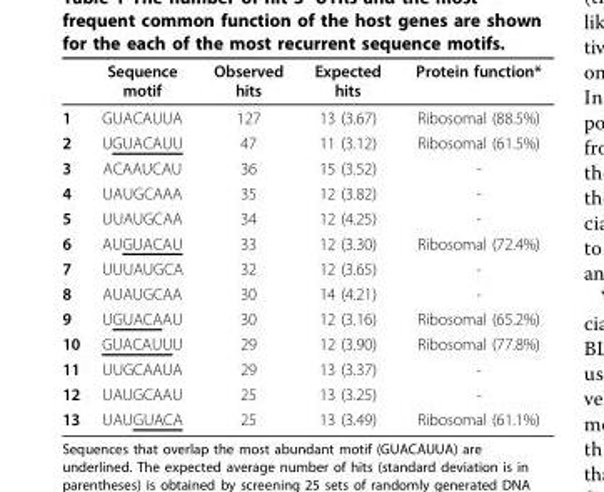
<table><thead><tr><td></td><td>Sequence motif</td><td>Observed hits</td><td>Expected hits</td><td>Protein function*</td></tr></thead><tbody><tr><td>1</td><td>GUACAUUA</td><td>127</td><td>13 (3.67)</td><td>Ribosomal (88.5%)</td></tr><tr><td>2</td><td>UGUACAUU</td><td>47</td><td>11 (3.12)</td><td>Ribosomal (61.5%)</td></tr><tr><td>3</td><td>ACAAUCAU</td><td>36</td><td>15 (3.52)</td><td>-</td></tr><tr><td>4</td><td>UAUGCAAA</td><td>35</td><td>12 (3.82)</td><td>-</td></tr><tr><td>5</td><td>UUAUGCAA</td><td>34</td><td>12 (4.25)</td><td>-</td></tr><tr><td>6</td><td>AUGUACAU</td><td>33</td><td>12 (3.30)</td><td>Ribosomal (72.4%)</td></tr><tr><td>7</td><td>UUUAUGCA</td><td>32</td><td>12 (3.65)</td><td>-</td></tr><tr><td>8</td><td>AUAUGCAA</td><td>30</td><td>14 (4.21)</td><td>-</td></tr><tr><td>9</td><td>UGUACAAU</td><td>30</td><td>12 (3.16)</td><td>Ribosomal (65.2%)</td></tr><tr><td>10</td><td>GUACAUUU</td><td>29</td><td>12 (3.90)</td><td>Ribosomal (77.8%)</td></tr><tr><td>11</td><td>UUGCAAUA</td><td>29</td><td>13 (3.37)</td><td>-</td></tr><tr><td>12</td><td>UAUGCAAU</td><td>25</td><td>13 (3.25)</td><td>-</td></tr><tr><td>13</td><td>UAUGUACA</td><td>25</td><td>13 (3.49)</td><td>Ribosomal (61.1%)</td></tr></tbody></table>